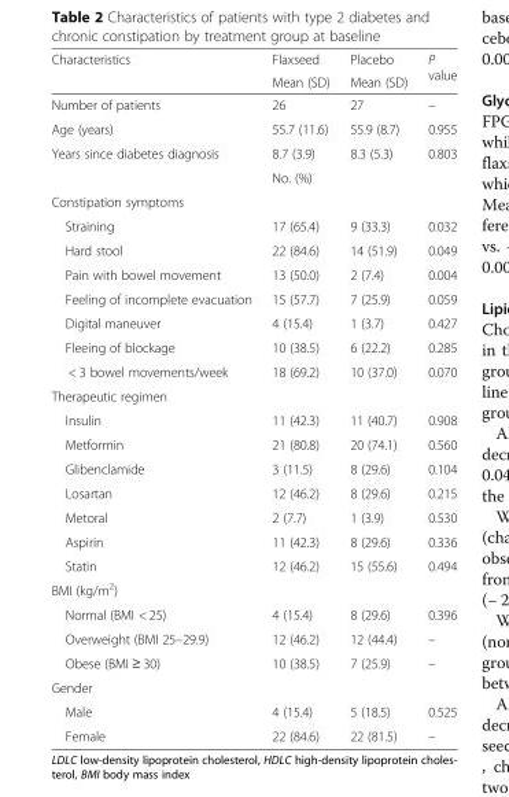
<table><thead><tr><td rowspan="2">Characteristics</td><td rowspan="2">Flaxseed Mean (SD)</td><td rowspan="2">Placebo Mean (SD)</td><td rowspan="2">P value</td></tr><tr></tr></thead><tbody><tr><td>Number of patients</td><td>26</td><td>27</td><td>–</td></tr><tr><td>Age (years)</td><td>55.7 (11.6)</td><td>55.9 (8.7)</td><td>0.955</td></tr><tr><td rowspan="2">Years since diabetes diagnosis</td><td>8.7 (3.9)</td><td>8.3 (5.3)</td><td>0.803</td></tr><tr><td colspan="2">No. (%)</td><td></td></tr><tr><td colspan="4">Constipation symptoms</td></tr><tr><td>Straining</td><td>17 (65.4)</td><td>9 (33.3)</td><td>0.032</td></tr><tr><td>Hard stool</td><td>22 (84.6)</td><td>14 (51.9)</td><td>0.049</td></tr><tr><td>Pain with bowel movement</td><td>13 (50.0)</td><td>2 (7.4)</td><td>0.004</td></tr><tr><td>Feeling of incomplete evacuation</td><td>15 (57.7)</td><td>7 (25.9)</td><td>0.059</td></tr><tr><td>Digital maneuver</td><td>4 (15.4)</td><td>1 (3.7)</td><td>0.427</td></tr><tr><td>Fleeing of blockage</td><td>10 (38.5)</td><td>6 (22.2)</td><td>0.285</td></tr><tr><td>&lt; 3 bowel movements/week</td><td>18 (69.2)</td><td>10 (37.0)</td><td>0.070</td></tr><tr><td colspan="4">Therapeutic regimen</td></tr><tr><td>Insulin</td><td>11 (42.3)</td><td>11 (40.7)</td><td>0.908</td></tr><tr><td>Metformin</td><td>21 (80.8)</td><td>20 (74.1)</td><td>0.560</td></tr><tr><td>Glibenclamide</td><td>3 (11.5)</td><td>8 (29.6)</td><td>0.104</td></tr><tr><td>Losartan</td><td>12 (46.2)</td><td>8 (29.6)</td><td>0.215</td></tr><tr><td>Metoral</td><td>2 (7.7)</td><td>1 (3.9)</td><td>0.530</td></tr><tr><td>Aspirin</td><td>11 (42.3)</td><td>8 (29.6)</td><td>0.336</td></tr><tr><td>Statin</td><td>12 (46.2)</td><td>15 (55.6)</td><td>0.494</td></tr><tr><td colspan="4">BMI (kg/m<sup>2</sup>)</td></tr><tr><td>Normal (BMI &lt; 25)</td><td>4 (15.4)</td><td>8 (29.6)</td><td>0.396</td></tr><tr><td>Overweight (BMI 25–29.9)</td><td>12 (46.2)</td><td>12 (44.4)</td><td>–</td></tr><tr><td>Obese (BMI ≥ 30)</td><td>10 (38.5)</td><td>7 (25.9)</td><td>–</td></tr><tr><td colspan="4">Gender</td></tr><tr><td>Male</td><td>4 (15.4)</td><td>5 (18.5)</td><td>0.525</td></tr><tr><td>Female</td><td>22 (84.6)</td><td>22 (81.5)</td><td>–</td></tr></tbody></table>